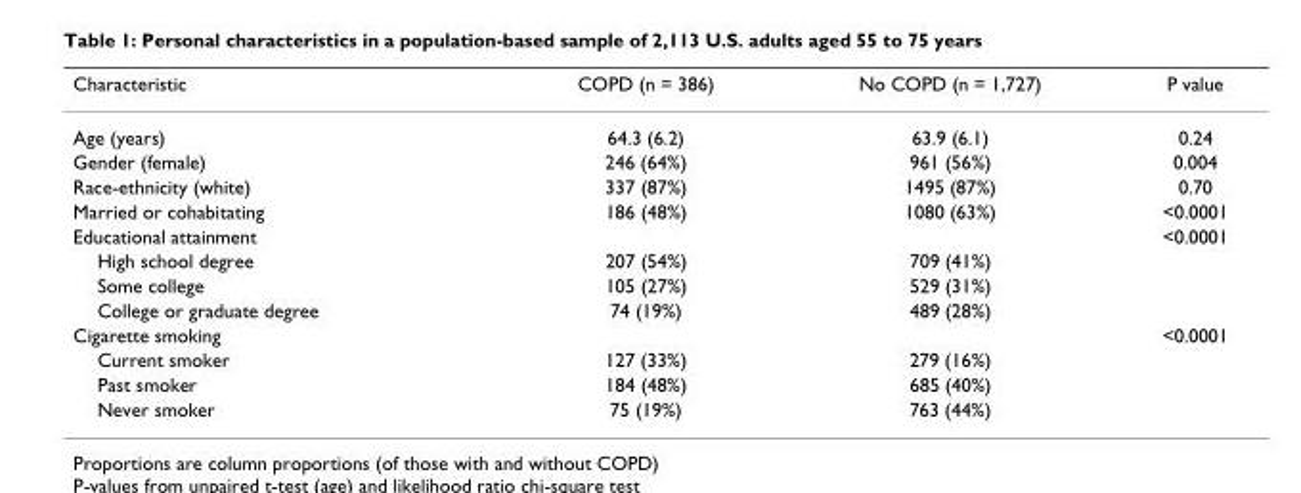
<table><thead><tr><td>Characteristic</td><td>COPD (n = 386)</td><td>No COPD (n = 1,727)</td><td>P value</td></tr></thead><tbody><tr><td>Age (years)</td><td>64.3 (6.2)</td><td>63.9 (6.1)</td><td>0.24</td></tr><tr><td>Gender (female)</td><td>246 (64%)</td><td>961 (56%)</td><td>0.004</td></tr><tr><td>Race-ethnicity (white)</td><td>337 (87%)</td><td>1495 (87%)</td><td>0.70</td></tr><tr><td>Married or cohabitating</td><td>186 (48%)</td><td>1080 (63%)</td><td>&lt;0.0001</td></tr><tr><td>Educational attainment</td><td></td><td></td><td>&lt;0.0001</td></tr><tr><td>High school degree</td><td>207 (54%)</td><td>709 (41%)</td><td></td></tr><tr><td>Some college</td><td>105 (27%)</td><td>529 (31%)</td><td></td></tr><tr><td>College or graduate degree</td><td>74 (19%)</td><td>489 (28%)</td><td></td></tr><tr><td>Cigarette smoking</td><td></td><td></td><td>&lt;0.0001</td></tr><tr><td>Current smoker</td><td>127 (33%)</td><td>279 (16%)</td><td></td></tr><tr><td>Past smoker</td><td>184 (48%)</td><td>685 (40%)</td><td></td></tr><tr><td>Never smoker</td><td>75 (19%)</td><td>763 (44%)</td><td></td></tr></tbody></table>